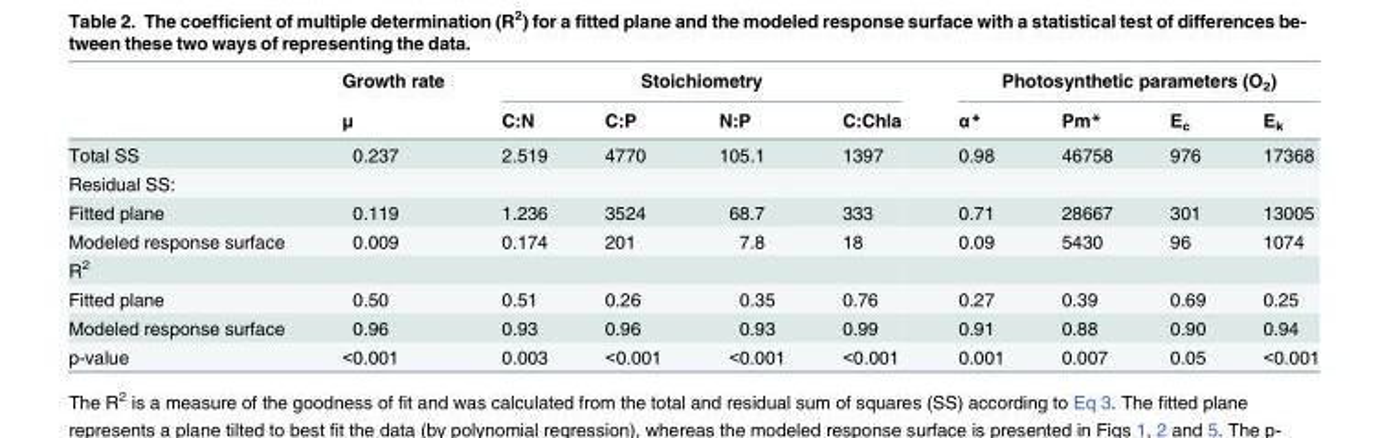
<table><thead><tr><td rowspan="2"></td><td rowspan="2">Growth rate μ</td><td colspan="4">Stoichiometry</td><td colspan="4">Photosynthetic parameters (O<sub>2</sub>)</td></tr><tr><td>C:N</td><td>C:P</td><td>N:P</td><td>C:Chla</td><td>α*</td><td>Pm*</td><td>E<sub>c</sub></td><td>E<sub>k</sub></td></tr></thead><tbody><tr><td>Total SS</td><td>0.237</td><td>2.519</td><td>4770</td><td>105.1</td><td>1397</td><td>0.98</td><td>46758</td><td>976</td><td>17368</td></tr><tr><td colspan="10">Residual SS:</td></tr><tr><td>Fitted plane</td><td>0.119</td><td>1.236</td><td>3524</td><td>68.7</td><td>333</td><td>0.71</td><td>28667</td><td>301</td><td>13005</td></tr><tr><td>Modeled response surface</td><td>0.009</td><td>0.174</td><td>201</td><td>7.8</td><td>18</td><td>0.09</td><td>5430</td><td>96</td><td>1074</td></tr><tr><td colspan="10">R<sup>2</sup></td></tr><tr><td>Fitted plane</td><td>0.50</td><td>0.51</td><td>0.26</td><td>0.35</td><td>0.76</td><td>0.27</td><td>0.39</td><td>0.69</td><td>0.25</td></tr><tr><td>Modeled response surface</td><td>0.96</td><td>0.93</td><td>0.96</td><td>0.93</td><td>0.99</td><td>0.91</td><td>0.88</td><td>0.90</td><td>0.94</td></tr><tr><td>p-value</td><td>&lt;0.001</td><td>0.003</td><td>&lt;0.001</td><td>&lt;0.001</td><td>&lt;0.001</td><td>0.001</td><td>0.007</td><td>0.05</td><td>&lt;0.001</td></tr></tbody></table>